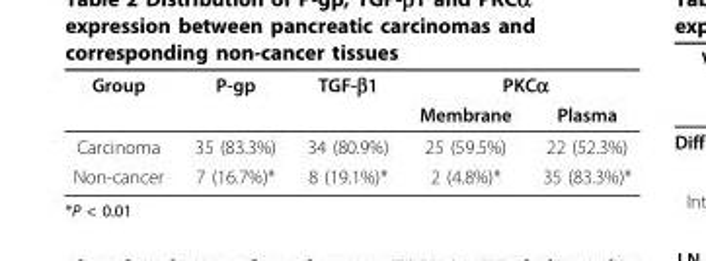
<table><thead><tr><td rowspan="2">Group</td><td rowspan="2">P-gp</td><td rowspan="2">TGF-β1</td><td colspan="2">PKCα</td></tr><tr><td>Membrane</td><td>Plasma</td></tr></thead><tbody><tr><td>Carcinoma</td><td>35 (83.3%)</td><td>34 (80.9%)</td><td>25 (59.5%)</td><td>22 (52.3%)</td></tr><tr><td>Non-cancer</td><td>7 (16.7%)*</td><td>8 (19.1%)*</td><td>2 (4.8%)*</td><td>35 (83.3%)*</td></tr></tbody></table>